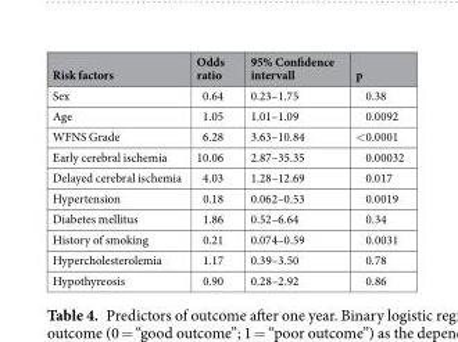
<table><thead><tr><td>Risk factors</td><td>Odds ratio</td><td>95% Confidence intervall</td><td>p</td></tr></thead><tbody><tr><td>Sex</td><td>0.64</td><td>0.23–1.75</td><td>0.38</td></tr><tr><td>Age</td><td>1.05</td><td>1.01–1.09</td><td>0.0092</td></tr><tr><td>WFNS Grade</td><td>6.28</td><td>3.63–10.84</td><td>&lt;0.0001</td></tr><tr><td>Early cerebral ischemia</td><td>10.06</td><td>2.87–35.35</td><td>0.00032</td></tr><tr><td>Delayed cerebral ischemia</td><td>4.03</td><td>1.28–12.69</td><td>0.017</td></tr><tr><td>Hypertension</td><td>0.18</td><td>0.062–0.53</td><td>0.0019</td></tr><tr><td>Diabetes mellitus</td><td>1.86</td><td>0.52–6.64</td><td>0.34</td></tr><tr><td>History of smoking</td><td>0.21</td><td>0.074–0.59</td><td>0.0031</td></tr><tr><td>Hypercholesterolemia</td><td>1.17</td><td>0.39–3.50</td><td>0.78</td></tr><tr><td>Hypothyreosis</td><td>0.90</td><td>0.28–2.92</td><td>0.86</td></tr></tbody></table>